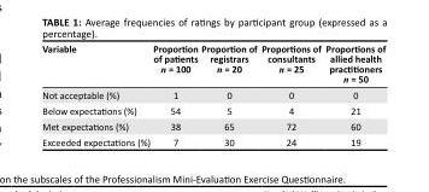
<table><thead><tr><td>Variable</td><td>Proportion of patients n = 100</td><td>Proportion of registrars n = 20</td><td>Proportions of consultants n = 25</td><td>Proportions of allied health practitioners n = 50</td></tr></thead><tbody><tr><td>Not acceptable (%)</td><td>1</td><td>0</td><td>0</td><td>0</td></tr><tr><td>Below expectations (%)</td><td>54</td><td>5</td><td>4</td><td>21</td></tr><tr><td>Met expectations (%)</td><td>38</td><td>65</td><td>72</td><td>60</td></tr><tr><td>Exceeded expectations (%)</td><td>7</td><td>30</td><td>24</td><td>19</td></tr></tbody></table>